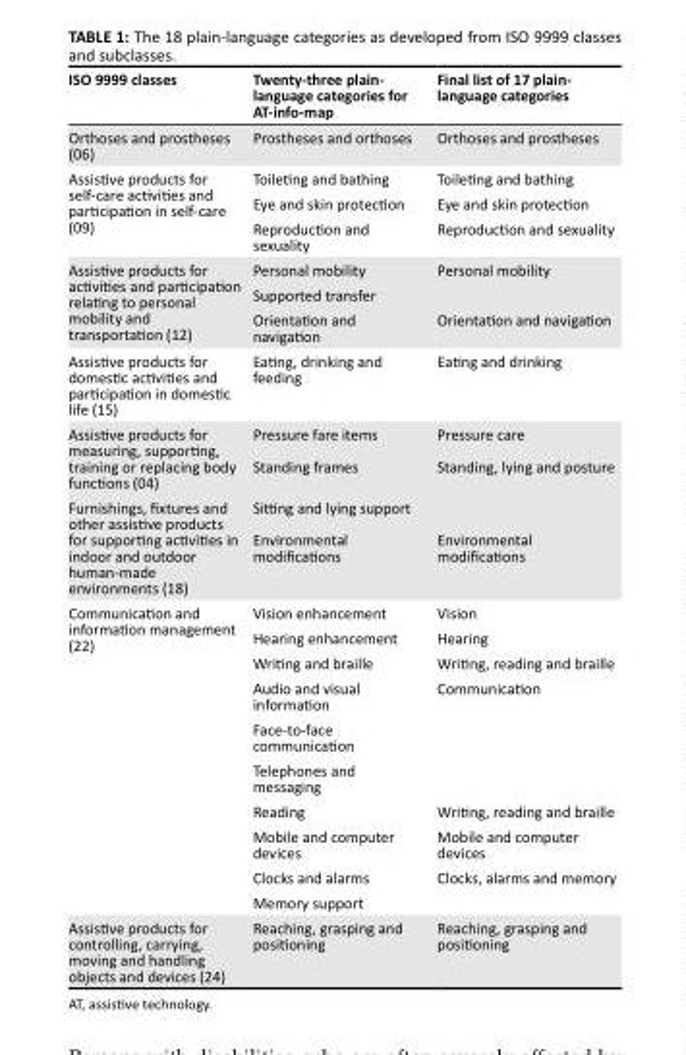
<table><thead><tr><td>ISO 9999 classes</td><td>Twenty-three plain- language categories for AT-info-map</td><td>Final list of 17 plain- language categories</td></tr></thead><tbody><tr><td>Orthoses and prostheses (06)</td><td>Prostheses and orthoses</td><td>Orthoses and prostheses</td></tr><tr><td rowspan="3">Assistive products for self-care activities and participation in self-care (09)</td><td>Toileting and bathing</td><td>Toileting and bathing</td></tr><tr><td>Eye and skin protection</td><td>Eye and skin protection</td></tr><tr><td>Reproduction and sexuality</td><td>Reproduction and sexuality</td></tr><tr><td rowspan="3">Assistive products for activities and participation relating to personal mobility and transportation (12)</td><td>Personal mobility</td><td rowspan="2">Personal mobility</td></tr><tr><td>Supported transfer</td></tr><tr><td>Orientation and navigation</td><td>Orientation and navigation</td></tr><tr><td>Assistive products for domestic activities and participation in domestic life (15)</td><td>Eating, drinking and feeding</td><td>Eating and drinking</td></tr><tr><td rowspan="2">Assistive products for measuring, supporting, training or replacing body functions (04)</td><td>Pressure fare items</td><td>Pressure care</td></tr><tr><td>Standing frames</td><td rowspan="2">Standing, lying and posture</td></tr><tr><td rowspan="2">Furnishings, fixtures and other assistive products for supporting activities in indoor and outdoor human-made environments (18)</td><td>Sitting and lying support</td></tr><tr><td>Environmental modifications</td><td>Environmental modifications</td></tr><tr><td rowspan="10">Communication and information management (22)</td><td>Vision enhancement</td><td>Vision</td></tr><tr><td>Hearing enhancement</td><td>Hearing</td></tr><tr><td>Writing and braille</td><td>Writing, reading and braille</td></tr><tr><td>Audio and visual information</td><td rowspan="3">Communication</td></tr><tr><td>Face-to-face communication</td></tr><tr><td>Telephones and messaging</td></tr><tr><td>Reading</td><td>Writing, reading and braille</td></tr><tr><td>Mobile and computer devices</td><td>Mobile and computer devices</td></tr><tr><td>Clocks and alarms</td><td rowspan="2">Clocks, alarms and memory</td></tr><tr><td>Memory support</td></tr><tr><td>Assistive products for controlling, carrying, moving and handling objects and devices (24)</td><td>Reaching, grasping and positioning</td><td>Reaching, grasping and positioning</td></tr></tbody></table>